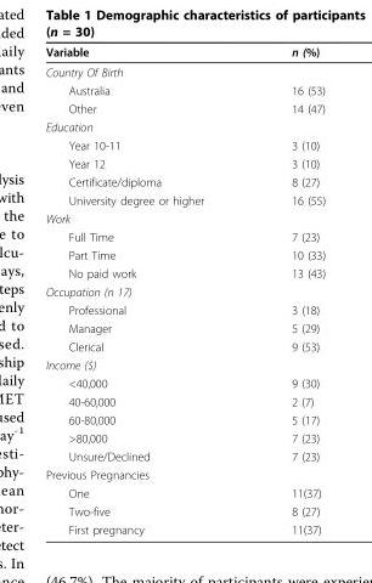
<table><thead><tr><td>Variable</td><td>n (%)</td></tr></thead><tbody><tr><td colspan="2">Country Of Birth</td></tr><tr><td>Australia</td><td>16 (53)</td></tr><tr><td>Other</td><td>14 (47)</td></tr><tr><td colspan="2">Education</td></tr><tr><td>Year 10-11</td><td>3 (10)</td></tr><tr><td>Year 12</td><td>3 (10)</td></tr><tr><td>Certificate/diploma</td><td>8 (27)</td></tr><tr><td>University degree or higher</td><td>16 (55)</td></tr><tr><td colspan="2">Work</td></tr><tr><td>Full Time</td><td>7 (23)</td></tr><tr><td>Part Time</td><td>10 (33)</td></tr><tr><td>No paid work</td><td>13 (43)</td></tr><tr><td colspan="2">Occupation (n 17)</td></tr><tr><td>Professional</td><td>3 (18)</td></tr><tr><td>Manager</td><td>5 (29)</td></tr><tr><td>Clerical</td><td>9 (53)</td></tr><tr><td colspan="2">Income ($)</td></tr><tr><td>&lt;40,000</td><td>9 (30)</td></tr><tr><td>40-60,000</td><td>2 (7)</td></tr><tr><td>60-80,000</td><td>5 (17)</td></tr><tr><td>&gt;80,000</td><td>7 (23)</td></tr><tr><td>Unsure/Declined</td><td>7 (23)</td></tr><tr><td colspan="2">Previous Pregnancies</td></tr><tr><td>One</td><td>11(37)</td></tr><tr><td>Two-five</td><td>8 (27)</td></tr><tr><td>First pregnancy</td><td>11(37)</td></tr></tbody></table>